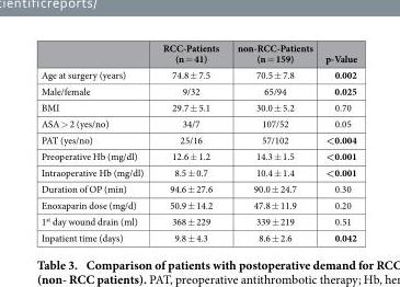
<table><thead><tr><td></td><td>RCC-Patients (n = 41)</td><td>non-RCC-Patients (n = 159)</td><td>p-Value</td></tr></thead><tbody><tr><td>Age at surgery (years)</td><td>74.8 ± 7.5</td><td>70.5 ± 7.8</td><td>0.002</td></tr><tr><td>Male/female</td><td>9/32</td><td>65/94</td><td>0.025</td></tr><tr><td>BMI</td><td>29.7 ± 5.1</td><td>30.0 ± 5.2</td><td>0.70</td></tr><tr><td>ASA &gt; 2 (yes/no)</td><td>34/7</td><td>107/52</td><td>0.05</td></tr><tr><td>PAT (yes/no)</td><td>25/16</td><td>57/102</td><td>&lt;0.004</td></tr><tr><td>Preoperative Hb (mg/dl)</td><td>12.6 ± 1.2</td><td>14.3 ± 1.5</td><td>&lt;0.001</td></tr><tr><td>Intraoperative Hb (mg/dl)</td><td>8.5 ± 0.7</td><td>10.4 ± 1.4</td><td>&lt;0.001</td></tr><tr><td>Duration of OP (min)</td><td>94.6 ± 27.6</td><td>90.0 ± 24.7</td><td>0.30</td></tr><tr><td>Enoxaparin dose (mg/d)</td><td>50.9 ± 14.2</td><td>47.8 ± 11.9</td><td>0.20</td></tr><tr><td>1<sup>st</sup> day wound drain (ml)</td><td>368 ± 229</td><td>339 ± 219</td><td>0.51</td></tr><tr><td>Inpatient time (days)</td><td>9.8 ± 4.3</td><td>8.6 ± 2.6</td><td>0.042</td></tr></tbody></table>